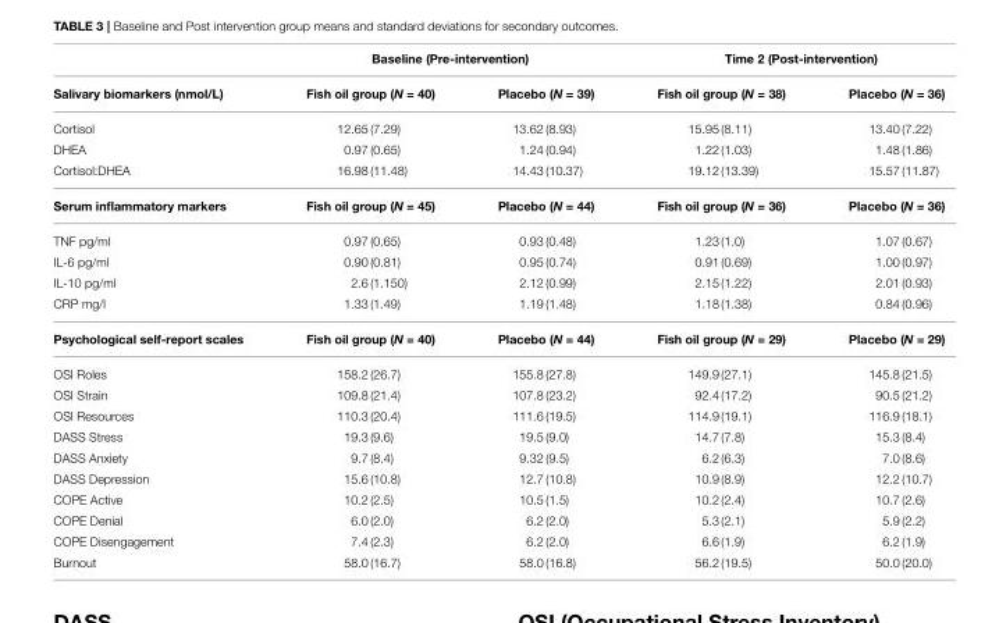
<table><thead><tr><td rowspan="2">Salivary biomarkers (nmol/L)</td><td colspan="2">Baseline (Pre-intervention)</td><td colspan="2">Time 2 (Post-intervention)</td></tr><tr><td>Fish oil group (N = 40)</td><td>Placebo (N = 39)</td><td>Fish oil group (N = 38)</td><td>Placebo (N = 36)</td></tr></thead><tbody><tr><td>Cortisol</td><td>12.65 (7.29)</td><td>13.62 (8.93)</td><td>15.95 (8.11)</td><td>13.40 (7.22)</td></tr><tr><td>DHEA</td><td>0.97 (0.65)</td><td>1.24 (0.94)</td><td>1.22 (1.03)</td><td>1.48 (1.86)</td></tr><tr><td>Cortisol:DHEA</td><td>16.98 (11.48)</td><td>14.43 (10.37)</td><td>19.12 (13.39)</td><td>15.57 (11.87)</td></tr><tr><td>Serum inflammatory markers</td><td>Fish oil group (N = 45)</td><td>Placebo (N = 44)</td><td>Fish oil group (N = 36)</td><td>Placebo (N = 36)</td></tr><tr><td>TNF pg/ml</td><td>0.97 (0.65)</td><td>0.93 (0.48)</td><td>1.23 (1.0)</td><td>1.07 (0.67)</td></tr><tr><td>IL-6 pg/ml</td><td>0.90 (0.81)</td><td>0.95 (0.74)</td><td>0.91 (0.69)</td><td>1.00 (0.97)</td></tr><tr><td>IL-10 pg/ml</td><td>2.6 (1.150)</td><td>2.12 (0.99)</td><td>2.15 (1.22)</td><td>2.01 (0.93)</td></tr><tr><td>CRP mg/l</td><td>1.33 (1.49)</td><td>1.19 (1.48)</td><td>1.18 (1.38)</td><td>0.84 (0.96)</td></tr><tr><td>Psychological self-report scales</td><td>Fish oil group (N = 40)</td><td>Placebo (N = 44)</td><td>Fish oil group (N = 29)</td><td>Placebo (N = 29)</td></tr><tr><td>OSI Roles</td><td>158.2 (26.7)</td><td>155.8 (27.8)</td><td>149.9 (27.1)</td><td>145.8 (21.5)</td></tr><tr><td>OSI Strain</td><td>109.8 (21.4)</td><td>107.8 (23.2)</td><td>92.4 (17.2)</td><td>90.5 (21.2)</td></tr><tr><td>OSI Resources</td><td>110.3 (20.4)</td><td>111.6 (19.5)</td><td>114.9 (19.1)</td><td>116.9 (18.1)</td></tr><tr><td>DASS Stress</td><td>19.3 (9.6)</td><td>19.5 (9.0)</td><td>14.7 (7.8)</td><td>15.3 (8.4)</td></tr><tr><td>DASS Anxiety</td><td>9.7 (8.4)</td><td>9.32 (9.5)</td><td>6.2 (6.3)</td><td>7.0 (8.6)</td></tr><tr><td>DASS Depression</td><td>15.6 (10.8)</td><td>12.7 (10.8)</td><td>10.9 (8.9)</td><td>12.2 (10.7)</td></tr><tr><td>COPE Active</td><td>10.2 (2.5)</td><td>10.5 (1.5)</td><td>10.2 (2.4)</td><td>10.7 (2.6)</td></tr><tr><td>COPE Denial</td><td>6.0 (2.0)</td><td>6.2 (2.0)</td><td>5.3 (2.1)</td><td>5.9 (2.2)</td></tr><tr><td>COPE Disengagement</td><td>7.4 (2.3)</td><td>6.2 (2.0)</td><td>6.6 (1.9)</td><td>6.2 (1.9)</td></tr><tr><td>Burnout</td><td>58.0 (16.7)</td><td>58.0 (16.8)</td><td>56.2 (19.5)</td><td>50.0 (20.0)</td></tr></tbody></table>